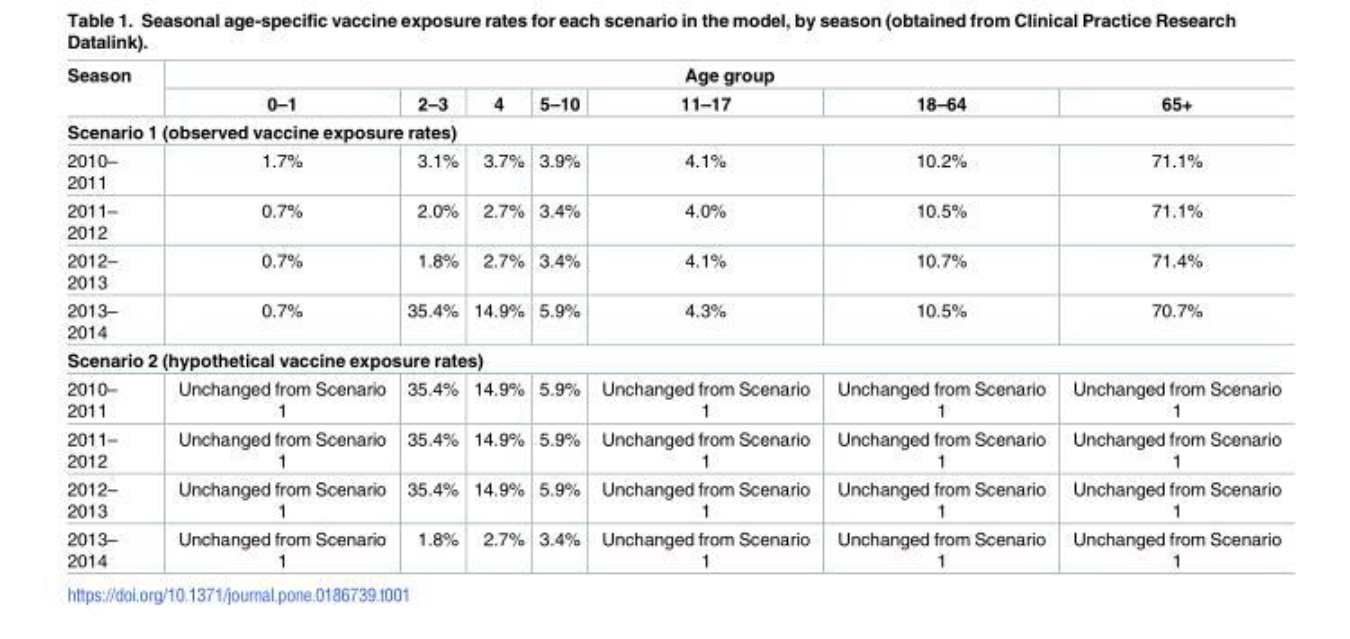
<table><thead><tr><td rowspan="2">Season</td><td colspan="7">Age group</td></tr><tr><td>0–1</td><td>2–3</td><td>4</td><td>5–10</td><td>11–17</td><td>18–64</td><td>65+</td></tr></thead><tbody><tr><td colspan="8">Scenario 1 (observed vaccine exposure rates)</td></tr><tr><td>2010– 2011</td><td>1.7%</td><td>3.1%</td><td>3.7%</td><td>3.9%</td><td>4.1%</td><td>10.2%</td><td>71.1%</td></tr><tr><td>2011– 2012</td><td>0.7%</td><td>2.0%</td><td>2.7%</td><td>3.4%</td><td>4.0%</td><td>10.5%</td><td>71.1%</td></tr><tr><td>2012– 2013</td><td>0.7%</td><td>1.8%</td><td>2.7%</td><td>3.4%</td><td>4.1%</td><td>10.7%</td><td>71.4%</td></tr><tr><td>2013– 2014</td><td>0.7%</td><td>35.4%</td><td>14.9%</td><td>5.9%</td><td>4.3%</td><td>10.5%</td><td>70.7%</td></tr><tr><td colspan="8">Scenario 2 (hypothetical vaccine exposure rates)</td></tr><tr><td>2010– 2011</td><td>Unchanged from Scenario 1</td><td>35.4%</td><td>14.9%</td><td>5.9%</td><td>Unchanged from Scenario 1</td><td>Unchanged from Scenario 1</td><td>Unchanged from Scenario 1</td></tr><tr><td>2011– 2012</td><td>Unchanged from Scenario 1</td><td>35.4%</td><td>14.9%</td><td>5.9%</td><td>Unchanged from Scenario 1</td><td>Unchanged from Scenario 1</td><td>Unchanged from Scenario 1</td></tr><tr><td>2012– 2013</td><td>Unchanged from Scenario 1</td><td>35.4%</td><td>14.9%</td><td>5.9%</td><td>Unchanged from Scenario 1</td><td>Unchanged from Scenario 1</td><td>Unchanged from Scenario 1</td></tr><tr><td>2013– 2014</td><td>Unchanged from Scenario 1</td><td>1.8%</td><td>2.7%</td><td>3.4%</td><td>Unchanged from Scenario 1</td><td>Unchanged from Scenario 1</td><td>Unchanged from Scenario 1</td></tr></tbody></table>